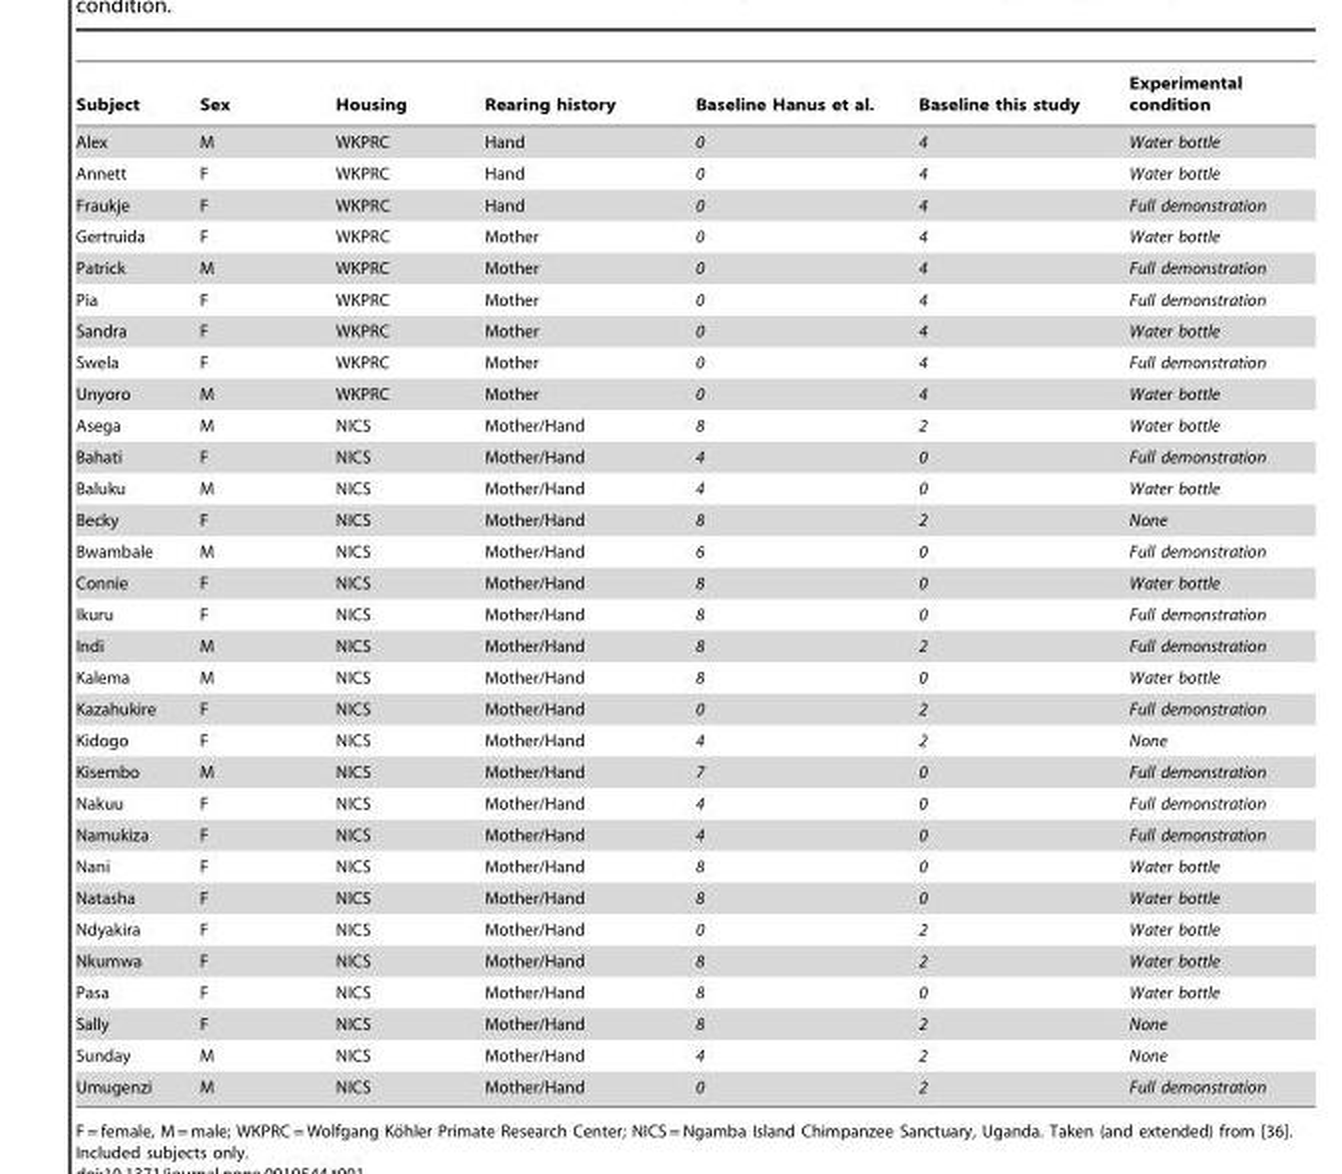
<table><thead><tr><td>Subject</td><td>Sex</td><td>Housing</td><td>Rearing history</td><td>Baseline Hanus et al.</td><td>Baseline this study</td><td>Experimental condition</td></tr></thead><tbody><tr><td>Alex</td><td>M</td><td>WKPRC</td><td>Hand</td><td>0</td><td>4</td><td>Water bottle</td></tr><tr><td>Annett</td><td>F</td><td>WKPRC</td><td>Hand</td><td>0</td><td>4</td><td>Water bottle</td></tr><tr><td>Fraukje</td><td>F</td><td>WKPRC</td><td>Hand</td><td>0</td><td>4</td><td>Full demonstration</td></tr><tr><td>Gertruida</td><td>F</td><td>WKPRC</td><td>Mother</td><td>0</td><td>4</td><td>Water bottle</td></tr><tr><td>Patrick</td><td>M</td><td>WKPRC</td><td>Mother</td><td>0</td><td>4</td><td>Full demonstration</td></tr><tr><td>Pia</td><td>F</td><td>WKPRC</td><td>Mother</td><td>0</td><td>4</td><td>Full demonstration</td></tr><tr><td>Sandra</td><td>F</td><td>WKPRC</td><td>Mother</td><td>0</td><td>4</td><td>Water bottle</td></tr><tr><td>Swela</td><td>F</td><td>WKPRC</td><td>Mother</td><td>0</td><td>4</td><td>Full demonstration</td></tr><tr><td>Unyoro</td><td>M</td><td>WKPRC</td><td>Mother</td><td>0</td><td>4</td><td>Water bottle</td></tr><tr><td>Asega</td><td>M</td><td>NICS</td><td>Mother/Hand</td><td>8</td><td>2</td><td>Water bottle</td></tr><tr><td>Bahati</td><td>F</td><td>NICS</td><td>Mother/Hand</td><td>4</td><td>0</td><td>Full demonstration</td></tr><tr><td>Baluku</td><td>M</td><td>NICS</td><td>Mother/Hand</td><td>4</td><td>0</td><td>Water bottle</td></tr><tr><td>Becky</td><td>F</td><td>NICS</td><td>Mother/Hand</td><td>8</td><td>2</td><td>None</td></tr><tr><td>Bwambale</td><td>M</td><td>NICS</td><td>Mother/Hand</td><td>6</td><td>0</td><td>Full demonstration</td></tr><tr><td>Connie</td><td>F</td><td>NICS</td><td>Mother/Hand</td><td>8</td><td>0</td><td>Water bottle</td></tr><tr><td>Ikuru</td><td>F</td><td>NICS</td><td>Mother/Hand</td><td>8</td><td>0</td><td>Full demonstration</td></tr><tr><td>Indi</td><td>M</td><td>NICS</td><td>Mother/Hand</td><td>8</td><td>2</td><td>Full demonstration</td></tr><tr><td>Kalema</td><td>M</td><td>NICS</td><td>Mother/Hand</td><td>8</td><td>0</td><td>Water bottle</td></tr><tr><td>Kazahukire</td><td>F</td><td>NICS</td><td>Mother/Hand</td><td>0</td><td>2</td><td>Full demonstration</td></tr><tr><td>Kidogo</td><td>F</td><td>NICS</td><td>Mother/Hand</td><td>4</td><td>2</td><td>None</td></tr><tr><td>Kisembo</td><td>M</td><td>NICS</td><td>Mother/Hand</td><td>7</td><td>0</td><td>Full demonstration</td></tr><tr><td>Nakuu</td><td>F</td><td>NICS</td><td>Mother/Hand</td><td>4</td><td>0</td><td>Full demonstration</td></tr><tr><td>Namukiza</td><td>F</td><td>NICS</td><td>Mother/Hand</td><td>4</td><td>0</td><td>Full demonstration</td></tr><tr><td>Nani</td><td>F</td><td>NICS</td><td>Mother/Hand</td><td>8</td><td>0</td><td>Water bottle</td></tr><tr><td>Natasha</td><td>F</td><td>NICS</td><td>Mother/Hand</td><td>8</td><td>0</td><td>Water bottle</td></tr><tr><td>Ndyakira</td><td>F</td><td>NICS</td><td>Mother/Hand</td><td>0</td><td>2</td><td>Water bottle</td></tr><tr><td>Nkumwa</td><td>F</td><td>NICS</td><td>Mother/Hand</td><td>8</td><td>2</td><td>Water bottle</td></tr><tr><td>Pasa</td><td>F</td><td>NICS</td><td>Mother/Hand</td><td>8</td><td>0</td><td>Water bottle</td></tr><tr><td>Sally</td><td>F</td><td>NICS</td><td>Mother/Hand</td><td>8</td><td>2</td><td>None</td></tr><tr><td>Sunday</td><td>M</td><td>NICS</td><td>Mother/Hand</td><td>4</td><td>2</td><td>None</td></tr><tr><td>Umugenzi</td><td>M</td><td>NICS</td><td>Mother/Hand</td><td>0</td><td>2</td><td>Full demonstration</td></tr></tbody></table>